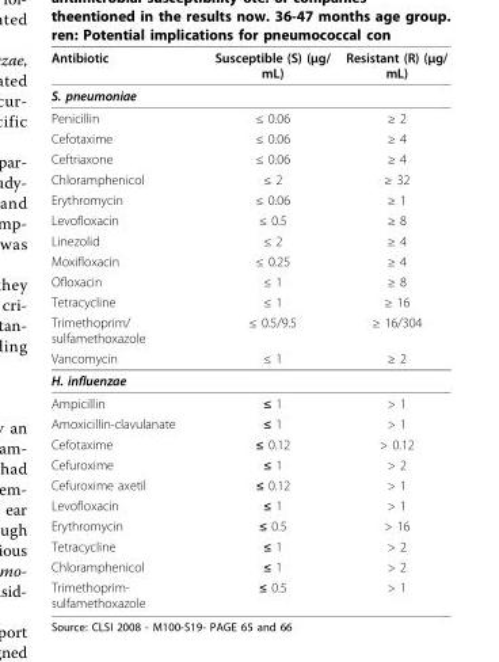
<table><thead><tr><td>Antibiotic</td><td>Susceptible (S) (μg/ mL)</td><td>Resistant (R) (μg/ mL)</td></tr></thead><tbody><tr><td colspan="3">S. pneumoniae</td></tr><tr><td>Penicillin</td><td>≤ 0.06</td><td>≥ 2</td></tr><tr><td>Cefotaxime</td><td>≤ 0.06</td><td>≥ 4</td></tr><tr><td>Ceftriaxone</td><td>≤ 0.06</td><td>≥ 4</td></tr><tr><td>Chloramphenicol</td><td>≤ 2</td><td>≥ 32</td></tr><tr><td>Erythromycin</td><td>≤ 0.06</td><td>≥ 1</td></tr><tr><td>Levofloxacin</td><td>≤ 0.5</td><td>≥ 8</td></tr><tr><td>Linezolid</td><td>≤ 2</td><td>≥ 4</td></tr><tr><td>Moxifloxacin</td><td>≤ 0.25</td><td>≥ 4</td></tr><tr><td>Ofloxacin</td><td>≤ 1</td><td>≥ 8</td></tr><tr><td>Tetracycline</td><td>≤ 1</td><td>≥ 16</td></tr><tr><td>Trimethoprim/ sulfamethoxazole</td><td>≤ 0.5/9.5</td><td>≥ 16/304</td></tr><tr><td>Vancomycin</td><td>≤ 1</td><td>≥ 2</td></tr><tr><td colspan="3">H. influenzae</td></tr><tr><td>Ampicillin</td><td>≤ 1</td><td>&gt; 1</td></tr><tr><td>Amoxicillin-clavulanate</td><td>≤ 1</td><td>&gt; 1</td></tr><tr><td>Cefotaxime</td><td>≤ 0.12</td><td>&gt; 0.12</td></tr><tr><td>Cefuroxime</td><td>≤ 1</td><td>&gt; 2</td></tr><tr><td>Cefuroxime axetil</td><td>≤ 0.12</td><td>&gt; 1</td></tr><tr><td>Levofloxacin</td><td>≤ 1</td><td>&gt; 1</td></tr><tr><td>Erythromycin</td><td>≤ 0.5</td><td>&gt; 16</td></tr><tr><td>Tetracycline</td><td>≤ 1</td><td>&gt; 2</td></tr><tr><td>Chloramphenicol</td><td>≤ 1</td><td>&gt; 2</td></tr><tr><td>Trimethoprim- sulfamethoxazole</td><td>≤ 0.5</td><td>&gt; 1</td></tr></tbody></table>